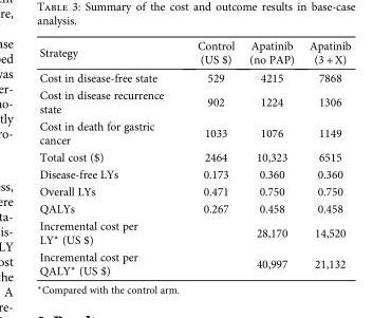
<table><thead><tr><td>Strategy</td><td>Control (US $)</td><td>Apatinib (no PAP)</td><td>Apatinib (3 + X)</td></tr></thead><tbody><tr><td>Cost in disease-free state</td><td>529</td><td>4215</td><td>7868</td></tr><tr><td>Cost in disease recurrence state</td><td>902</td><td>1224</td><td>1306</td></tr><tr><td>Cost in death for gastric cancer</td><td>1033</td><td>1076</td><td>1149</td></tr><tr><td>Total cost ($)</td><td>2464</td><td>10,323</td><td>6515</td></tr><tr><td>Disease-free LYs</td><td>0.173</td><td>0.360</td><td>0.360</td></tr><tr><td>Overall LYs</td><td>0.471</td><td>0.750</td><td>0.750</td></tr><tr><td>QALYs</td><td>0.267</td><td>0.458</td><td>0.458</td></tr><tr><td>Incremental cost per LY∗ (US $)</td><td></td><td>28,170</td><td>14,520</td></tr><tr><td>Incremental cost per QALY∗ (US $)</td><td></td><td>40,997</td><td>21,132</td></tr></tbody></table>